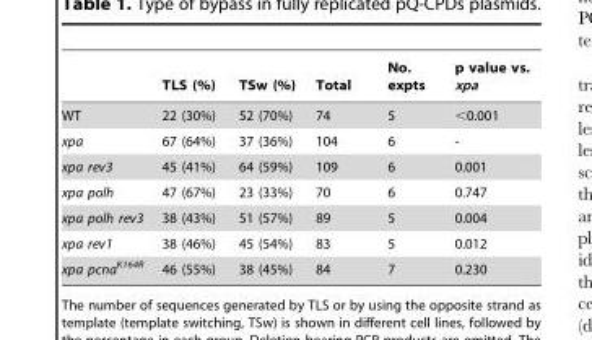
<table><thead><tr><td></td><td>TLS (%)</td><td>TSw (%)</td><td>Total</td><td>No. expts</td><td>p value vs. xpa</td></tr></thead><tbody><tr><td>WT</td><td>22 (30%)</td><td>52 (70%)</td><td>74</td><td>5</td><td>&lt;0.001</td></tr><tr><td>xpa</td><td>67 (64%)</td><td>37 (36%)</td><td>104</td><td>6</td><td>-</td></tr><tr><td>xpa rev3</td><td>45 (41%)</td><td>64 (59%)</td><td>109</td><td>6</td><td>0.001</td></tr><tr><td>xpa polh</td><td>47 (67%)</td><td>23 (33%)</td><td>70</td><td>6</td><td>0.747</td></tr><tr><td>xpa polh rev3</td><td>38 (43%)</td><td>51 (57%)</td><td>89</td><td>5</td><td>0.004</td></tr><tr><td>xpa rev1</td><td>38 (46%)</td><td>45 (54%)</td><td>83</td><td>5</td><td>0.012</td></tr><tr><td>xpa pcna<sup>K164R</sup></td><td>46 (55%)</td><td>38 (45%)</td><td>84</td><td>7</td><td>0.230</td></tr></tbody></table>